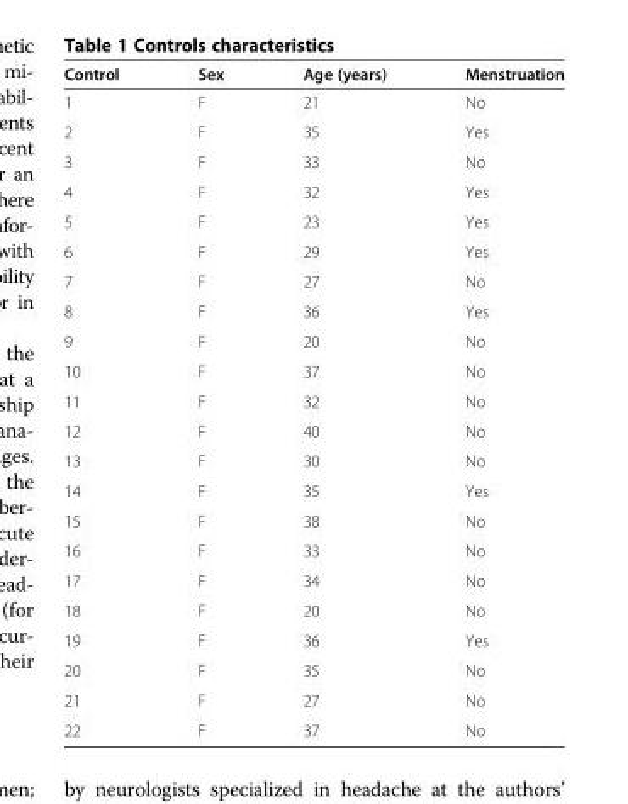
<table><thead><tr><td>Control</td><td>Sex</td><td>Age (years)</td><td>Menstruation</td></tr></thead><tbody><tr><td>1</td><td>F</td><td>21</td><td>No</td></tr><tr><td>2</td><td>F</td><td>35</td><td>Yes</td></tr><tr><td>3</td><td>F</td><td>33</td><td>No</td></tr><tr><td>4</td><td>F</td><td>32</td><td>Yes</td></tr><tr><td>5</td><td>F</td><td>23</td><td>Yes</td></tr><tr><td>6</td><td>F</td><td>29</td><td>Yes</td></tr><tr><td>7</td><td>F</td><td>27</td><td>No</td></tr><tr><td>8</td><td>F</td><td>36</td><td>Yes</td></tr><tr><td>9</td><td>F</td><td>20</td><td>No</td></tr><tr><td>10</td><td>F</td><td>37</td><td>No</td></tr><tr><td>11</td><td>F</td><td>32</td><td>No</td></tr><tr><td>12</td><td>F</td><td>40</td><td>No</td></tr><tr><td>13</td><td>F</td><td>30</td><td>No</td></tr><tr><td>14</td><td>F</td><td>35</td><td>Yes</td></tr><tr><td>15</td><td>F</td><td>38</td><td>No</td></tr><tr><td>16</td><td>F</td><td>33</td><td>No</td></tr><tr><td>17</td><td>F</td><td>34</td><td>No</td></tr><tr><td>18</td><td>F</td><td>20</td><td>No</td></tr><tr><td>19</td><td>F</td><td>36</td><td>Yes</td></tr><tr><td>20</td><td>F</td><td>35</td><td>No</td></tr><tr><td>21</td><td>F</td><td>27</td><td>No</td></tr><tr><td>22</td><td>F</td><td>37</td><td>No</td></tr></tbody></table>